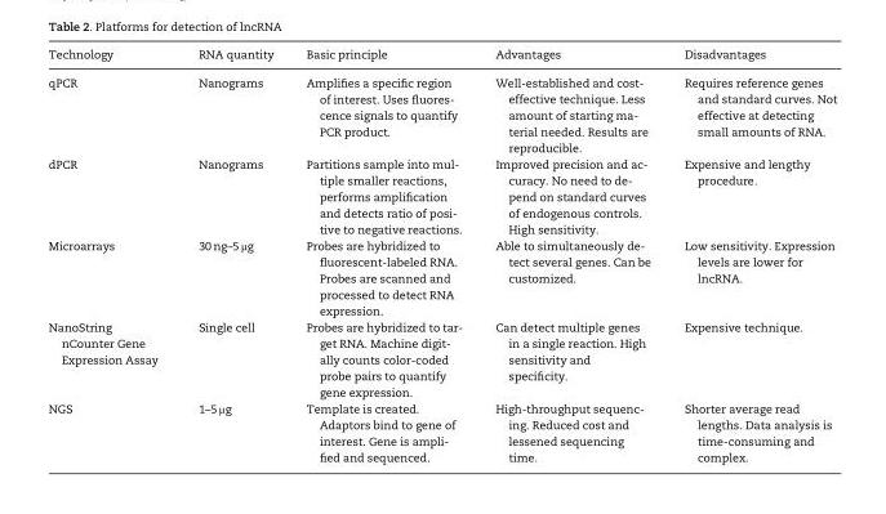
<table><thead><tr><td>Technology</td><td>RNA quantity</td><td>Basic principle</td><td>Advantages</td><td>Disadvantages</td></tr></thead><tbody><tr><td>qPCR</td><td>Nanograms</td><td>Amplifies a specific region of interest. Uses fluores- cence signals to quantify PCR product.</td><td>Well-established and cost- effective technique. Less amount of starting ma- terial needed. Results are reproducible.</td><td>Requires reference genes and standard curves. Not effective at detecting small amounts of RNA.</td></tr><tr><td>dPCR</td><td>Nanograms</td><td>Partitions sample into mul- tiple smaller reactions, performs amplification and detects ratio of posi- tive to negative reactions.</td><td>Improved precision and ac- curacy. No need to de- pend on standard curves of endogenous controls. High sensitivity.</td><td>Expensive and lengthy procedure.</td></tr><tr><td>Microarrays</td><td>30 ng–5 µg</td><td>Probes are hybridized to fluorescent-labeled RNA. Probes are scanned and processed to detect RNA expression.</td><td>Able to simultaneously de- tect several genes. Can be customized.</td><td>Low sensitivity. Expression levels are lower for lncRNA.</td></tr><tr><td>NanoString nCounter Gene Expression Assay</td><td>Single cell</td><td>Probes are hybridized to tar- get RNA. Machine digit- ally counts color-coded probe pairs to quantify gene expression.</td><td>Can detect multiple genes in a single reaction. High sensitivity and specificity.</td><td>Expensive technique.</td></tr><tr><td>NGS</td><td>1–5 µg</td><td>Template is created. Adaptors bind to gene of interest. Gene is ampli- fied and sequenced.</td><td>High-throughput sequenc- ing. Reduced cost and lessened sequencing time.</td><td>Shorter average read lengths. Data analysis is time-consuming and complex.</td></tr></tbody></table>